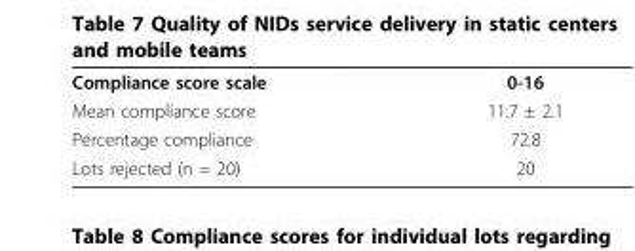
<table><tbody><tr><td>Compliance score scale</td><td>0-16</td></tr><tr><td>Mean compliance score</td><td>11.7 ± 2.1</td></tr><tr><td>Percentage compliance</td><td>72.8</td></tr><tr><td>Lots rejected (n = 20)</td><td>20</td></tr></tbody></table>